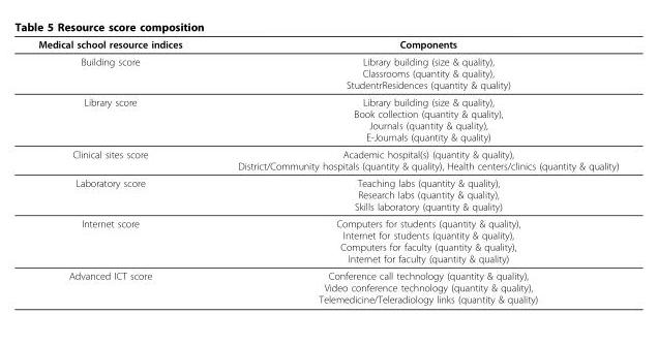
<table><thead><tr><td>Medical school resource indices</td><td>Components</td></tr></thead><tbody><tr><td>Building score</td><td>Library building (size &amp; quality), Classrooms (quantity &amp; quality), StudentrResidences (quantity &amp; quality)</td></tr><tr><td>Library score</td><td>Library building (size &amp; quality), Book collection (quantity &amp; quality), Journals (quantity &amp; quality), E-Journals (quantity &amp; quality)</td></tr><tr><td>Clinical sites score</td><td>Academic hospital(s) (quantity &amp; quality), District/Community hospitals (quantity &amp; quality), Health centers/clinics (quantity &amp; quality)</td></tr><tr><td>Laboratory score</td><td>Teaching labs (quantity &amp; quality), Research labs (quantity &amp; quality), Skills laboratory (quantity &amp; quality)</td></tr><tr><td>Internet score</td><td>Computers for students (quantity &amp; quality), Internet for students (quantity &amp; quality), Computers for faculty (quantity &amp; quality), Internet for faculty (quantity &amp; quality)</td></tr><tr><td>Advanced ICT score</td><td>Conference call technology (quantity &amp; quality), Video conference technology (quantity &amp; quality), Telemedicine/Teleradiology links (quantity &amp; quality)</td></tr></tbody></table>